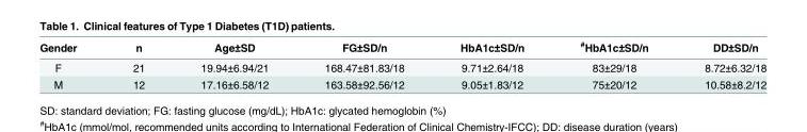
<table><thead><tr><td>Gender</td><td>n</td><td>Age±SD</td><td>FG±SD/n</td><td>HbA1c±SD/n</td><td><sup>#</sup>HbA1c±SD/n</td><td>DD±SD/n</td></tr></thead><tbody><tr><td>F</td><td>21</td><td>19.94±6.94/21</td><td>168.47±81.83/18</td><td>9.71±2.64/18</td><td>83±29/18</td><td>8.72±6.32/18</td></tr><tr><td>M</td><td>12</td><td>17.16±6.58/12</td><td>163.58±92.56/12</td><td>9.05±1.83/12</td><td>75±20/12</td><td>10.58±8.2/12</td></tr></tbody></table>